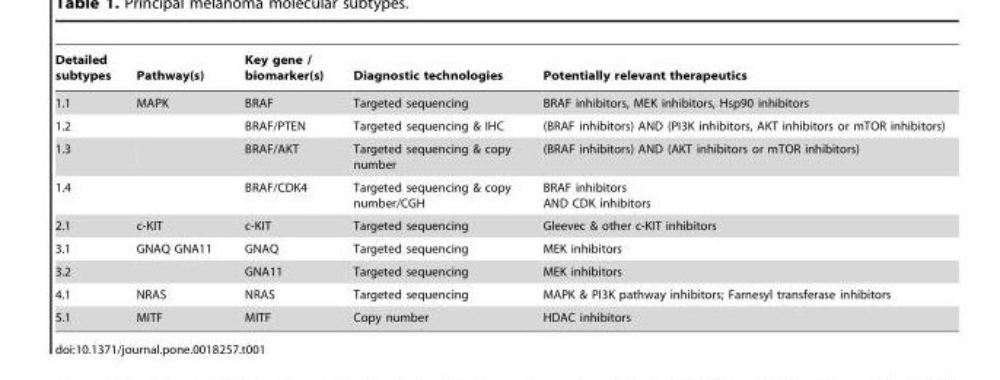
<table><thead><tr><td>Detailed subtypes</td><td>Pathway(s)</td><td>Key gene / biomarker(s)</td><td>Diagnostic technologies</td><td>Potentially relevant therapeutics</td></tr></thead><tbody><tr><td>1.1</td><td>MAPK</td><td>BRAF</td><td>Targeted sequencing</td><td>BRAF inhibitors, MEK inhibitors, Hsp90 inhibitors</td></tr><tr><td>1.2</td><td></td><td>BRAF/PTEN</td><td>Targeted sequencing &amp; IHC</td><td>(BRAF inhibitors) AND (PI3K inhibitors, AKT inhibitors or mTOR inhibitors)</td></tr><tr><td>1.3</td><td></td><td>BRAF/AKT</td><td>Targeted sequencing &amp; copy number</td><td>(BRAF inhibitors) AND (AKT inhibitors or mTOR inhibitors)</td></tr><tr><td>1.4</td><td></td><td>BRAF/CDK4</td><td>Targeted sequencing &amp; copy number/CGH</td><td>BRAF inhibitors AND CDK inhibitors</td></tr><tr><td>2.1</td><td>c-KIT</td><td>c-KIT</td><td>Targeted sequencing</td><td>Gleevec &amp; other c-KIT inhibitors</td></tr><tr><td>3.1</td><td>GNAQ GNA11</td><td>GNAQ</td><td>Targeted sequencing</td><td>MEK inhibitors</td></tr><tr><td>3.2</td><td></td><td>GNA11</td><td>Targeted sequencing</td><td>MEK inhibitors</td></tr><tr><td>4.1</td><td>NRAS</td><td>NRAS</td><td>Targeted sequencing</td><td>MAPK &amp; PI3K pathway inhibitors; Farnesyl transferase inhibitors</td></tr><tr><td>5.1</td><td>MITF</td><td>MITF</td><td>Copy number</td><td>HDAC inhibitors</td></tr></tbody></table>